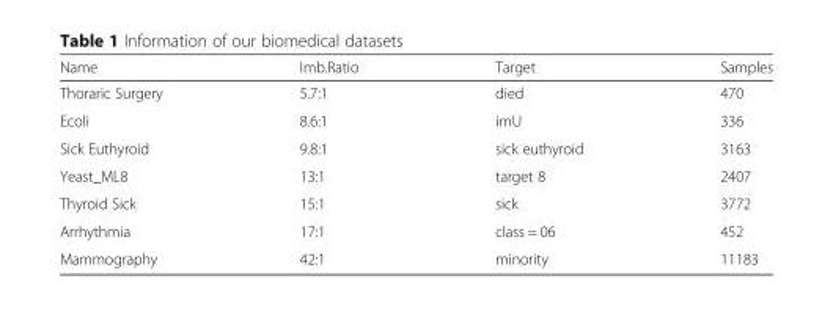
<table><thead><tr><td>Name</td><td>Imb.Ratio</td><td>Target</td><td>Samples</td></tr></thead><tbody><tr><td>Thoraric Surgery</td><td>5.7:1</td><td>died</td><td>470</td></tr><tr><td>Ecoli</td><td>8.6:1</td><td>imU</td><td>336</td></tr><tr><td>Sick Euthyroid</td><td>9.8:1</td><td>sick euthyroid</td><td>3163</td></tr><tr><td>Yeast_ML8</td><td>13:1</td><td>target 8</td><td>2407</td></tr><tr><td>Thyroid Sick</td><td>15:1</td><td>sick</td><td>3772</td></tr><tr><td>Arrhythmia</td><td>17:1</td><td>class = 06</td><td>452</td></tr><tr><td>Mammography</td><td>42:1</td><td>minority</td><td>11183</td></tr></tbody></table>